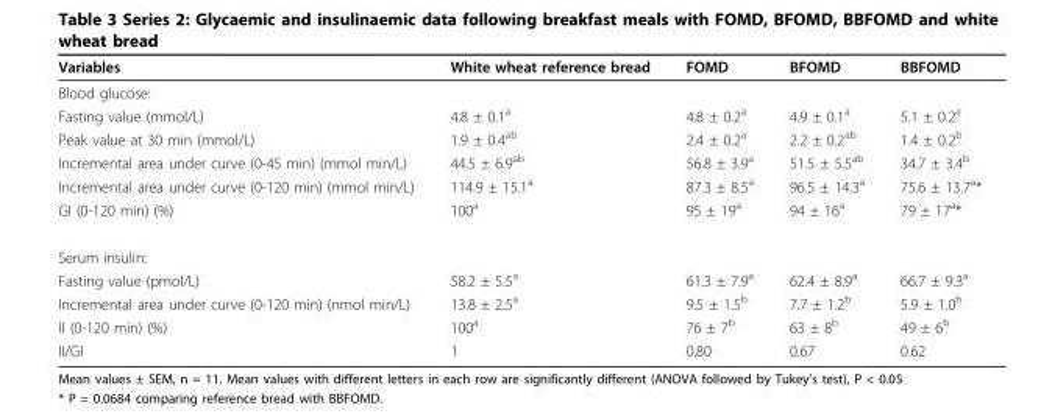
<table><thead><tr><td>Variables</td><td>White wheat reference bread</td><td>FOMD</td><td>BFOMD</td><td>BBFOMD</td></tr></thead><tbody><tr><td colspan="5">Blood glucose:</td></tr><tr><td>Fasting value (mmol/L)</td><td>4.8 ± 0.1<sup>a</sup></td><td>4.8 ± 0.2<sup>a</sup></td><td>4.9 ± 0.1<sup>a</sup></td><td>5.1 ± 0.2<sup>a</sup></td></tr><tr><td>Peak value at 30 min (mmol/L)</td><td>1.9 ± 0.4<sup>ab</sup></td><td>2.4 ± 0.2<sup>a</sup></td><td>2.2 ± 0.2<sup>ab</sup></td><td>1.4 ± 0.2<sup>b</sup></td></tr><tr><td>Incremental area under curve (0-45 min) (mmol min/L)</td><td>44.5 ± 6.9<sup>ab</sup></td><td>56.8 ± 3.9<sup>a</sup></td><td>51.5 ± 5.5<sup>ab</sup></td><td>34.7 ± 3.4<sup>b</sup></td></tr><tr><td>Incremental area under curve (0-120 min) (mmol min/L)</td><td>114.9 ± 15.1<sup>a</sup></td><td>87.3 ± 8.5<sup>a</sup></td><td>96.5 ± 14.3<sup>a</sup></td><td>75.6 ± 13.7<sup>a</sup>*</td></tr><tr><td>GI (0-120 min) (%)</td><td>100<sup>a</sup></td><td>95 ± 19<sup>a</sup></td><td>94 ± 16<sup>a</sup></td><td>79 ± 17<sup>a</sup>*</td></tr><tr><td colspan="5">Serum insulin:</td></tr><tr><td>Fasting value (pmol/L)</td><td>58.2 ± 5.5<sup>a</sup></td><td>61.3 ± 7.9<sup>a</sup></td><td>62.4 ± 8.9<sup>a</sup></td><td>66.7 ± 9.3<sup>a</sup></td></tr><tr><td>Incremental area under curve (0-120 min) (nmol min/L)</td><td>13.8 ± 2.5<sup>a</sup></td><td>9.5 ± 1.5<sup>b</sup></td><td>7.7 ± 1.2<sup>b</sup></td><td>5.9 ± 1.0<sup>b</sup></td></tr><tr><td>II (0-120 min) (%)</td><td>100<sup>a</sup></td><td>76 ± 7<sup>b</sup></td><td>63 ± 8<sup>b</sup></td><td>49 ± 6<sup>b</sup></td></tr><tr><td>II/GI</td><td>1</td><td>0.80</td><td>0.67</td><td>0.62</td></tr></tbody></table>